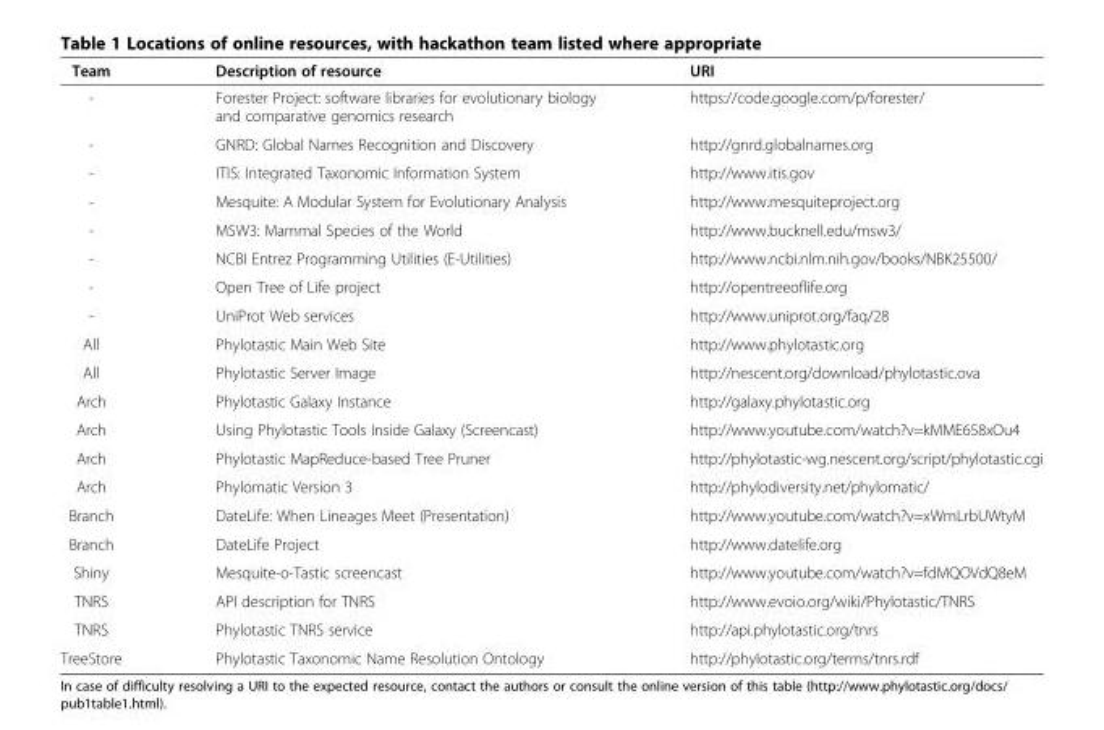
<table><thead><tr><td>Team</td><td>Description of resource</td><td>URI</td></tr></thead><tbody><tr><td>-</td><td>Forester Project: software libraries for evolutionary biology and comparative genomics research</td><td>https://code.google.com/p/forester/</td></tr><tr><td>-</td><td>GNRD: Global Names Recognition and Discovery</td><td>http://gnrd.globalnames.org</td></tr><tr><td>-</td><td>ITIS: Integrated Taxonomic Information System</td><td>http://www.itis.gov</td></tr><tr><td>-</td><td>Mesquite: A Modular System for Evolutionary Analysis</td><td>http://www.mesquiteproject.org</td></tr><tr><td>-</td><td>MSW3: Mammal Species of the World</td><td>http://www.bucknell.edu/msw3/</td></tr><tr><td>-</td><td>NCBI Entrez Programming Utilities (E-Utilities)</td><td>http://www.ncbi.nlm.nih.gov/books/NBK25500/</td></tr><tr><td>-</td><td>Open Tree of Life project</td><td>http://opentreeoflife.org</td></tr><tr><td>-</td><td>UniProt Web services</td><td>http://www.uniprot.org/faq/28</td></tr><tr><td>All</td><td>Phylotastic Main Web Site</td><td>http://www.phylotastic.org</td></tr><tr><td>All</td><td>Phylotastic Server Image</td><td>http://nescent.org/download/phylotastic.ova</td></tr><tr><td>Arch</td><td>Phylotastic Galaxy Instance</td><td>http://galaxy.phylotastic.org</td></tr><tr><td>Arch</td><td>Using Phylotastic Tools Inside Galaxy (Screencast)</td><td>http://www.youtube.com/watch?v=kMME658xOu4</td></tr><tr><td>Arch</td><td>Phylotastic MapReduce-based Tree Pruner</td><td>http://phylotastic-wg.nescent.org/script/phylotastic.cgi</td></tr><tr><td>Arch</td><td>Phylomatic Version 3</td><td>http://phylodiversity.net/phylomatic/</td></tr><tr><td>Branch</td><td>DateLife: When Lineages Meet (Presentation)</td><td>http://www.youtube.com/watch?v=xWmLrbUWtyM</td></tr><tr><td>Branch</td><td>DateLife Project</td><td>http://www.datelife.org</td></tr><tr><td>Shiny</td><td>Mesquite-o-Tastic screencast</td><td>http://www.youtube.com/watch?v=fdMQOVdQ8eM</td></tr><tr><td>TNRS</td><td>API description for TNRS</td><td>http://www.evoio.org/wiki/Phylotastic/TNRS</td></tr><tr><td>TNRS</td><td>Phylotastic TNRS service</td><td>http://api.phylotastic.org/tnrs</td></tr><tr><td>TreeStore</td><td>Phylotastic Taxonomic Name Resolution Ontology</td><td>http://phylotastic.org/terms/tnrs.rdf</td></tr></tbody></table>